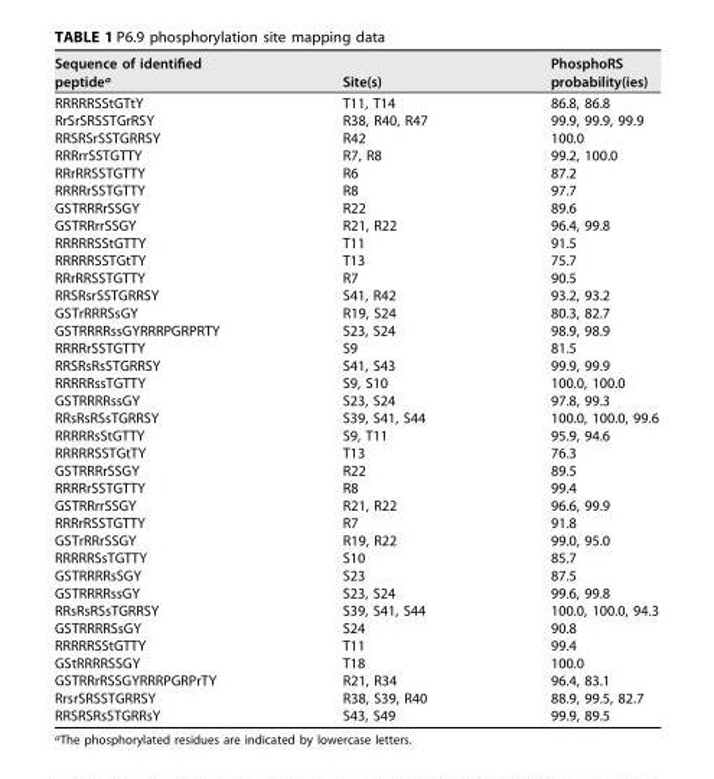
<table><thead><tr><td>Sequence of identified peptide<sup>a</sup></td><td>Site(s)</td><td>PhosphoRS probability(ies)</td></tr></thead><tbody><tr><td>RRRRRSStGTtY</td><td>T11, T14</td><td>86.8, 86.8</td></tr><tr><td>RrSrSRSSTGrRSY</td><td>R38, R40, R47</td><td>99.9, 99.9, 99.9</td></tr><tr><td>RRSRSrSSTGRRSY</td><td>R42</td><td>100.0</td></tr><tr><td>RRRrrSSTGTTY</td><td>R7, R8</td><td>99.2, 100.0</td></tr><tr><td>RRrRRSSTGTTY</td><td>R6</td><td>87.2</td></tr><tr><td>RRRRrSSTGTTY</td><td>R8</td><td>97.7</td></tr><tr><td>GSTRRRrSSGY</td><td>R22</td><td>89.6</td></tr><tr><td>GSTRRrrSSGY</td><td>R21, R22</td><td>96.4, 99.8</td></tr><tr><td>RRRRRSStGTTY</td><td>T11</td><td>91.5</td></tr><tr><td>RRRRRSSTGtTY</td><td>T13</td><td>75.7</td></tr><tr><td>RRrRRSSTGTTY</td><td>R7</td><td>90.5</td></tr><tr><td>RRSRsrSSTGRRSY</td><td>S41, R42</td><td>93.2, 93.2</td></tr><tr><td>GSTrRRRSsGY</td><td>R19, S24</td><td>80.3, 82.7</td></tr><tr><td>GSTRRRRssGYRRRPGRPRTY</td><td>S23, S24</td><td>98.9, 98.9</td></tr><tr><td>RRRRrSSTGTTY</td><td>S9</td><td>81.5</td></tr><tr><td>RRSRsRsSTGRRSY</td><td>S41, S43</td><td>99.9, 99.9</td></tr><tr><td>RRRRRssTGTTY</td><td>S9, S10</td><td>100.0, 100.0</td></tr><tr><td>GSTRRRRssGY</td><td>S23, S24</td><td>97.8, 99.3</td></tr><tr><td>RRsRsRSsTGRRSY</td><td>S39, S41, S44</td><td>100.0, 100.0, 99.6</td></tr><tr><td>RRRRRsStGTTY</td><td>S9, T11</td><td>95.9, 94.6</td></tr><tr><td>RRRRRSSTGtTY</td><td>T13</td><td>76.3</td></tr><tr><td>GSTRRRrSSGY</td><td>R22</td><td>89.5</td></tr><tr><td>RRRRrSSTGTTY</td><td>R8</td><td>99.4</td></tr><tr><td>GSTRRrrSSGY</td><td>R21, R22</td><td>96.6, 99.9</td></tr><tr><td>RRRrRSSTGTTY</td><td>R7</td><td>91.8</td></tr><tr><td>GSTrRRrSSGY</td><td>R19, R22</td><td>99.0, 95.0</td></tr><tr><td>RRRRRSsTGTTY</td><td>S10</td><td>85.7</td></tr><tr><td>GSTRRRRsSGY</td><td>S23</td><td>87.5</td></tr><tr><td>GSTRRRRssGY</td><td>S23, S24</td><td>99.6, 99.8</td></tr><tr><td>RRsRsRSsTGRRSY</td><td>S39, S41, S44</td><td>100.0, 100.0, 94.3</td></tr><tr><td>GSTRRRRSsGY</td><td>S24</td><td>90.8</td></tr><tr><td>RRRRRSStGTTY</td><td>T11</td><td>99.4</td></tr><tr><td>GStRRRRSSGY</td><td>T18</td><td>100.0</td></tr><tr><td>GSTRRrRSSGYRRRPGRPrTY</td><td>R21, R34</td><td>96.4, 83.1</td></tr><tr><td>RrsrSRSSTGRRSY</td><td>R38, S39, R40</td><td>88.9, 99.5, 82.7</td></tr><tr><td>RRSRSRsSTGRRsY</td><td>S43, S49</td><td>99.9, 89.5</td></tr></tbody></table>